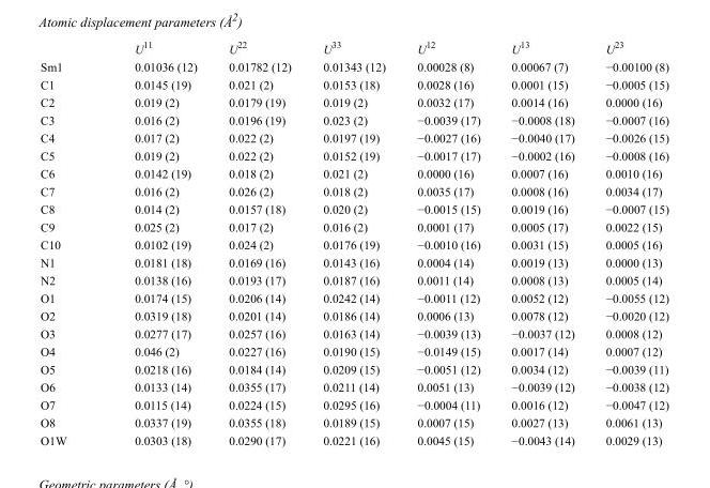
<table><thead><tr><td></td><td>U<sup>11</sup></td><td>U<sup>22</sup></td><td>U<sup>33</sup></td><td>U<sup>12</sup></td><td>U<sup>13</sup></td><td>U<sup>23</sup></td></tr></thead><tbody><tr><td>Sm1</td><td>0.01036 (12)</td><td>0.01782 (12)</td><td>0.01343 (12)</td><td>0.00028 (8)</td><td>0.00067 (7)</td><td>−0.00100 (8)</td></tr><tr><td>C1</td><td>0.0145 (19)</td><td>0.021 (2)</td><td>0.0153 (18)</td><td>0.0028 (16)</td><td>0.0001 (15)</td><td>−0.0005 (15)</td></tr><tr><td>C2</td><td>0.019 (2)</td><td>0.0179 (19)</td><td>0.019 (2)</td><td>0.0032 (17)</td><td>0.0014 (16)</td><td>0.0000 (16)</td></tr><tr><td>C3</td><td>0.016 (2)</td><td>0.0196 (19)</td><td>0.023 (2)</td><td>−0.0039 (17)</td><td>−0.0008 (18)</td><td>−0.0007 (16)</td></tr><tr><td>C4</td><td>0.017 (2)</td><td>0.022 (2)</td><td>0.0197 (19)</td><td>−0.0027 (16)</td><td>−0.0040 (17)</td><td>−0.0026 (15)</td></tr><tr><td>C5</td><td>0.019 (2)</td><td>0.022 (2)</td><td>0.0152 (19)</td><td>−0.0017 (17)</td><td>−0.0002 (16)</td><td>−0.0008 (16)</td></tr><tr><td>C6</td><td>0.0142 (19)</td><td>0.018 (2)</td><td>0.021 (2)</td><td>0.0000 (16)</td><td>0.0007 (16)</td><td>0.0010 (16)</td></tr><tr><td>C7</td><td>0.016 (2)</td><td>0.026 (2)</td><td>0.018 (2)</td><td>0.0035 (17)</td><td>0.0008 (16)</td><td>0.0034 (17)</td></tr><tr><td>C8</td><td>0.014 (2)</td><td>0.0157 (18)</td><td>0.020 (2)</td><td>−0.0015 (15)</td><td>0.0019 (16)</td><td>−0.0007 (15)</td></tr><tr><td>C9</td><td>0.025 (2)</td><td>0.017 (2)</td><td>0.016 (2)</td><td>0.0001 (17)</td><td>0.0005 (17)</td><td>0.0022 (15)</td></tr><tr><td>C10</td><td>0.0102 (19)</td><td>0.024 (2)</td><td>0.0176 (19)</td><td>−0.0010 (16)</td><td>0.0031 (15)</td><td>0.0005 (16)</td></tr><tr><td>N1</td><td>0.0181 (18)</td><td>0.0169 (16)</td><td>0.0143 (16)</td><td>0.0004 (14)</td><td>0.0019 (13)</td><td>0.0000 (13)</td></tr><tr><td>N2</td><td>0.0138 (16)</td><td>0.0193 (17)</td><td>0.0187 (16)</td><td>0.0011 (14)</td><td>0.0008 (13)</td><td>0.0005 (14)</td></tr><tr><td>O1</td><td>0.0174 (15)</td><td>0.0206 (14)</td><td>0.0242 (14)</td><td>−0.0011 (12)</td><td>0.0052 (12)</td><td>−0.0055 (12)</td></tr><tr><td>O2</td><td>0.0319 (18)</td><td>0.0201 (14)</td><td>0.0186 (14)</td><td>0.0006 (13)</td><td>0.0078 (12)</td><td>−0.0020 (12)</td></tr><tr><td>O3</td><td>0.0277 (17)</td><td>0.0257 (16)</td><td>0.0163 (14)</td><td>−0.0039 (13)</td><td>−0.0037 (12)</td><td>0.0008 (12)</td></tr><tr><td>O4</td><td>0.046 (2)</td><td>0.0227 (16)</td><td>0.0190 (15)</td><td>−0.0149 (15)</td><td>0.0017 (14)</td><td>0.0007 (12)</td></tr><tr><td>O5</td><td>0.0218 (16)</td><td>0.0184 (14)</td><td>0.0209 (15)</td><td>−0.0051 (12)</td><td>0.0034 (12)</td><td>−0.0039 (11)</td></tr><tr><td>O6</td><td>0.0133 (14)</td><td>0.0355 (17)</td><td>0.0211 (14)</td><td>0.0051 (13)</td><td>−0.0039 (12)</td><td>−0.0038 (12)</td></tr><tr><td>O7</td><td>0.0115 (14)</td><td>0.0224 (15)</td><td>0.0295 (16)</td><td>−0.0004 (11)</td><td>0.0016 (12)</td><td>−0.0047 (12)</td></tr><tr><td>O8</td><td>0.0337 (19)</td><td>0.0355 (18)</td><td>0.0189 (15)</td><td>0.0007 (15)</td><td>0.0027 (13)</td><td>0.0061 (13)</td></tr><tr><td>O1W</td><td>0.0303 (18)</td><td>0.0290 (17)</td><td>0.0221 (16)</td><td>0.0045 (15)</td><td>−0.0043 (14)</td><td>0.0029 (13)</td></tr></tbody></table>